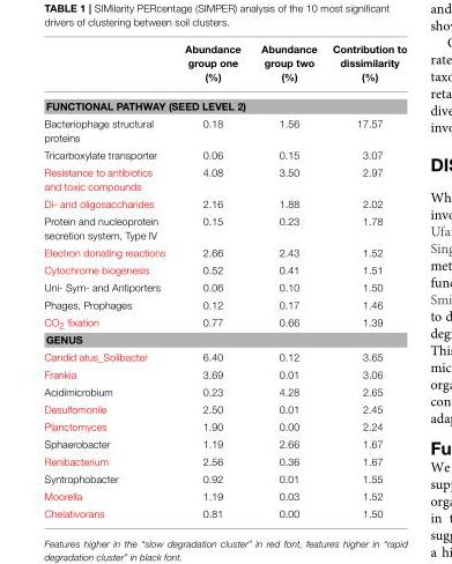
<table><thead><tr><td></td><td>Abundance group one (%)</td><td>Abundance group two (%)</td><td>Contribution to dissimilarity (%)</td></tr></thead><tbody><tr><td colspan="4">FUNCTIONAL PATHWAY (SEED LEVEL 2)</td></tr><tr><td>Bacteriophage structural proteins</td><td>0.18</td><td>1.56</td><td>17.57</td></tr><tr><td>Tricarboxylate transporter</td><td>0.06</td><td>0.15</td><td>3.07</td></tr><tr><td>Resistance to antibiotics and toxic compounds</td><td>4.08</td><td>3.50</td><td>2.97</td></tr><tr><td>Di- and oligosaccharides</td><td>2.16</td><td>1.88</td><td>2.02</td></tr><tr><td>Protein and nucleoprotein secretion system, Type IV</td><td>0.15</td><td>0.23</td><td>1.78</td></tr><tr><td>Electron donating reactions</td><td>2.66</td><td>2.43</td><td>1.52</td></tr><tr><td>Cytochrome biogenesis</td><td>0.52</td><td>0.41</td><td>1.51</td></tr><tr><td>Uni- Sym- and Antiporters</td><td>0.06</td><td>0.10</td><td>1.50</td></tr><tr><td>Phages, Prophages</td><td>0.12</td><td>0.17</td><td>1.46</td></tr><tr><td>CO<sub>2</sub> fixation</td><td>0.77</td><td>0.66</td><td>1.39</td></tr><tr><td colspan="4">GENUS</td></tr><tr><td>Candid atus_Solibacter</td><td>6.40</td><td>0.12</td><td>3.65</td></tr><tr><td>Frankia</td><td>3.69</td><td>0.01</td><td>3.06</td></tr><tr><td>Acidimicrobium</td><td>0.23</td><td>4.28</td><td>2.65</td></tr><tr><td>Desulfomonile</td><td>2.50</td><td>0.01</td><td>2.45</td></tr><tr><td>Planctomyces</td><td>1.90</td><td>0.00</td><td>2.24</td></tr><tr><td>Sphaerobacter</td><td>1.19</td><td>2.66</td><td>1.67</td></tr><tr><td>Renibacterium</td><td>2.56</td><td>0.36</td><td>1.67</td></tr><tr><td>Syntrophobacter</td><td>0.92</td><td>0.01</td><td>1.55</td></tr><tr><td>Moorella</td><td>1.19</td><td>0.03</td><td>1.52</td></tr><tr><td>Chelativorans</td><td>0.81</td><td>0.00</td><td>1.50</td></tr></tbody></table>